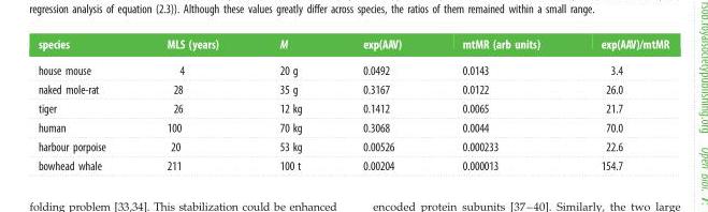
<table><thead><tr><td>species</td><td>MLS (years)</td><td>M</td><td>exp(AAV)</td><td>mtMR (arb units)</td><td>exp(AAV)/mtMR</td></tr></thead><tbody><tr><td>house mouse</td><td>4</td><td>20 g</td><td>0.0492</td><td>0.0143</td><td>3.4</td></tr><tr><td>naked mole-rat</td><td>28</td><td>35 g</td><td>0.3167</td><td>0.0122</td><td>26.0</td></tr><tr><td>tiger</td><td>26</td><td>12 kg</td><td>0.1412</td><td>0.0065</td><td>21.7</td></tr><tr><td>human</td><td>100</td><td>70 kg</td><td>0.3068</td><td>0.0044</td><td>70.0</td></tr><tr><td>harbour porpoise</td><td>20</td><td>53 kg</td><td>0.00526</td><td>0.000233</td><td>22.6</td></tr><tr><td>bowhead whale</td><td>211</td><td>100 t</td><td>0.00204</td><td>0.000013</td><td>154.7</td></tr></tbody></table>